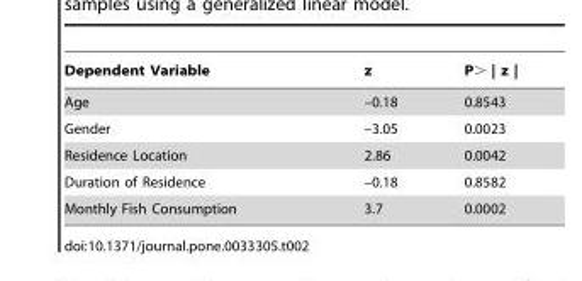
<table><thead><tr><td>Dependent Variable</td><td>z</td><td>P&gt; | z |</td></tr></thead><tbody><tr><td>Age</td><td>–0.18</td><td>0.8543</td></tr><tr><td>Gender</td><td>–3.05</td><td>0.0023</td></tr><tr><td>Residence Location</td><td>2.86</td><td>0.0042</td></tr><tr><td>Duration of Residence</td><td>–0.18</td><td>0.8582</td></tr><tr><td>Monthly Fish Consumption</td><td>3.7</td><td>0.0002</td></tr></tbody></table>